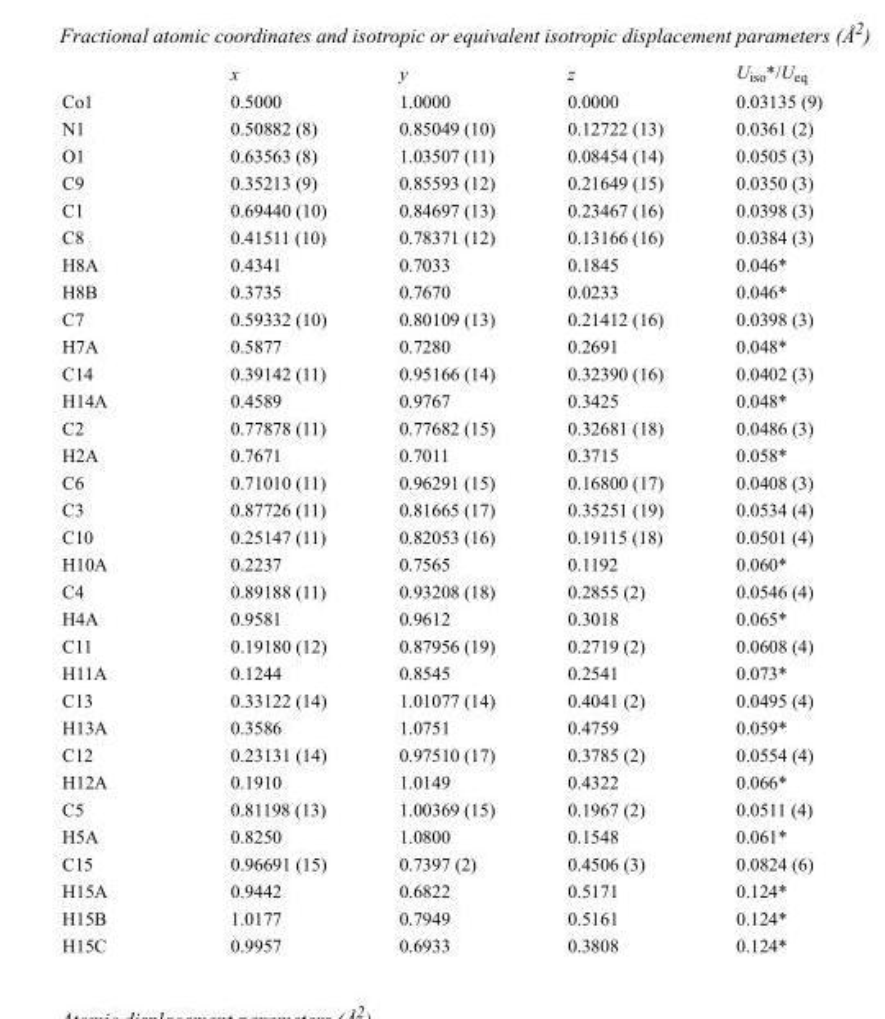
<table><thead><tr><td></td><td>x</td><td>y</td><td>z</td><td>U<sub>iso</sub>*/U<sub>eq</sub></td></tr></thead><tbody><tr><td>Co1</td><td>0.5000</td><td>1.0000</td><td>0.0000</td><td>0.03135 (9)</td></tr><tr><td>N1</td><td>0.50882 (8)</td><td>0.85049 (10)</td><td>0.12722 (13)</td><td>0.0361 (2)</td></tr><tr><td>O1</td><td>0.63563 (8)</td><td>1.03507 (11)</td><td>0.08454 (14)</td><td>0.0505 (3)</td></tr><tr><td>C9</td><td>0.35213 (9)</td><td>0.85593 (12)</td><td>0.21649 (15)</td><td>0.0350 (3)</td></tr><tr><td>C1</td><td>0.69440 (10)</td><td>0.84697 (13)</td><td>0.23467 (16)</td><td>0.0398 (3)</td></tr><tr><td>C8</td><td>0.41511 (10)</td><td>0.78371 (12)</td><td>0.13166 (16)</td><td>0.0384 (3)</td></tr><tr><td>H8A</td><td>0.4341</td><td>0.7033</td><td>0.1845</td><td>0.046*</td></tr><tr><td>H8B</td><td>0.3735</td><td>0.7670</td><td>0.0233</td><td>0.046*</td></tr><tr><td>C7</td><td>0.59332 (10)</td><td>0.80109 (13)</td><td>0.21412 (16)</td><td>0.0398 (3)</td></tr><tr><td>H7A</td><td>0.5877</td><td>0.7280</td><td>0.2691</td><td>0.048*</td></tr><tr><td>C14</td><td>0.39142 (11)</td><td>0.95166 (14)</td><td>0.32390 (16)</td><td>0.0402 (3)</td></tr><tr><td>H14A</td><td>0.4589</td><td>0.9767</td><td>0.3425</td><td>0.048*</td></tr><tr><td>C2</td><td>0.77878 (11)</td><td>0.77682 (15)</td><td>0.32681 (18)</td><td>0.0486 (3)</td></tr><tr><td>H2A</td><td>0.7671</td><td>0.7011</td><td>0.3715</td><td>0.058*</td></tr><tr><td>C6</td><td>0.71010 (11)</td><td>0.96291 (15)</td><td>0.16800 (17)</td><td>0.0408 (3)</td></tr><tr><td>C3</td><td>0.87726 (11)</td><td>0.81665 (17)</td><td>0.35251 (19)</td><td>0.0534 (4)</td></tr><tr><td>C10</td><td>0.25147 (11)</td><td>0.82053 (16)</td><td>0.19115 (18)</td><td>0.0501 (4)</td></tr><tr><td>H10A</td><td>0.2237</td><td>0.7565</td><td>0.1192</td><td>0.060*</td></tr><tr><td>C4</td><td>0.89188 (11)</td><td>0.93208 (18)</td><td>0.2855 (2)</td><td>0.0546 (4)</td></tr><tr><td>H4A</td><td>0.9581</td><td>0.9612</td><td>0.3018</td><td>0.065*</td></tr><tr><td>C11</td><td>0.19180 (12)</td><td>0.87956 (19)</td><td>0.2719 (2)</td><td>0.0608 (4)</td></tr><tr><td>H11A</td><td>0.1244</td><td>0.8545</td><td>0.2541</td><td>0.073*</td></tr><tr><td>C13</td><td>0.33122 (14)</td><td>1.01077 (14)</td><td>0.4041 (2)</td><td>0.0495 (4)</td></tr><tr><td>H13A</td><td>0.3586</td><td>1.0751</td><td>0.4759</td><td>0.059*</td></tr><tr><td>C12</td><td>0.23131 (14)</td><td>0.97510 (17)</td><td>0.3785 (2)</td><td>0.0554 (4)</td></tr><tr><td>H12A</td><td>0.1910</td><td>1.0149</td><td>0.4322</td><td>0.066*</td></tr><tr><td>C5</td><td>0.81198 (13)</td><td>1.00369 (15)</td><td>0.1967 (2)</td><td>0.0511 (4)</td></tr><tr><td>H5A</td><td>0.8250</td><td>1.0800</td><td>0.1548</td><td>0.061*</td></tr><tr><td>C15</td><td>0.96691 (15)</td><td>0.7397 (2)</td><td>0.4506 (3)</td><td>0.0824 (6)</td></tr><tr><td>H15A</td><td>0.9442</td><td>0.6822</td><td>0.5171</td><td>0.124*</td></tr><tr><td>H15B</td><td>1.0177</td><td>0.7949</td><td>0.5161</td><td>0.124*</td></tr><tr><td>H15C</td><td>0.9957</td><td>0.6933</td><td>0.3808</td><td>0.124*</td></tr></tbody></table>